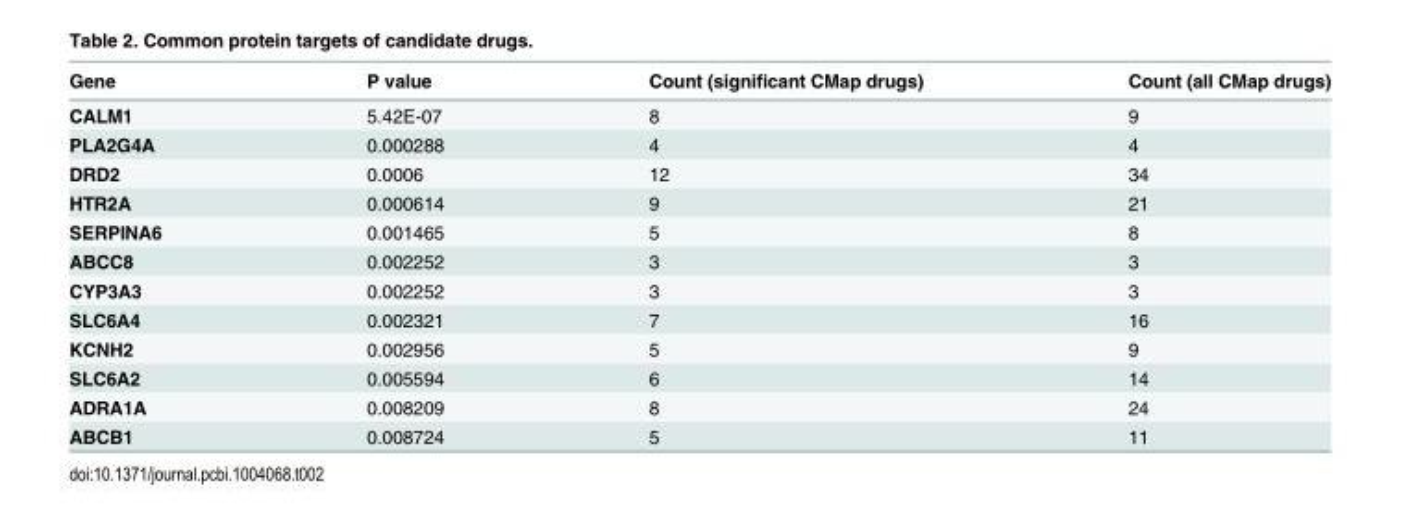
<table><thead><tr><td>Gene</td><td>P value</td><td>Count (significant CMap drugs)</td><td>Count (all CMap drugs)</td></tr></thead><tbody><tr><td>CALM1</td><td>5.42E-07</td><td>8</td><td>9</td></tr><tr><td>PLA2G4A</td><td>0.000288</td><td>4</td><td>4</td></tr><tr><td>DRD2</td><td>0.0006</td><td>12</td><td>34</td></tr><tr><td>HTR2A</td><td>0.000614</td><td>9</td><td>21</td></tr><tr><td>SERPINA6</td><td>0.001465</td><td>5</td><td>8</td></tr><tr><td>ABCC8</td><td>0.002252</td><td>3</td><td>3</td></tr><tr><td>CYP3A3</td><td>0.002252</td><td>3</td><td>3</td></tr><tr><td>SLC6A4</td><td>0.002321</td><td>7</td><td>16</td></tr><tr><td>KCNH2</td><td>0.002956</td><td>5</td><td>9</td></tr><tr><td>SLC6A2</td><td>0.005594</td><td>6</td><td>14</td></tr><tr><td>ADRA1A</td><td>0.008209</td><td>8</td><td>24</td></tr><tr><td>ABCB1</td><td>0.008724</td><td>5</td><td>11</td></tr></tbody></table>